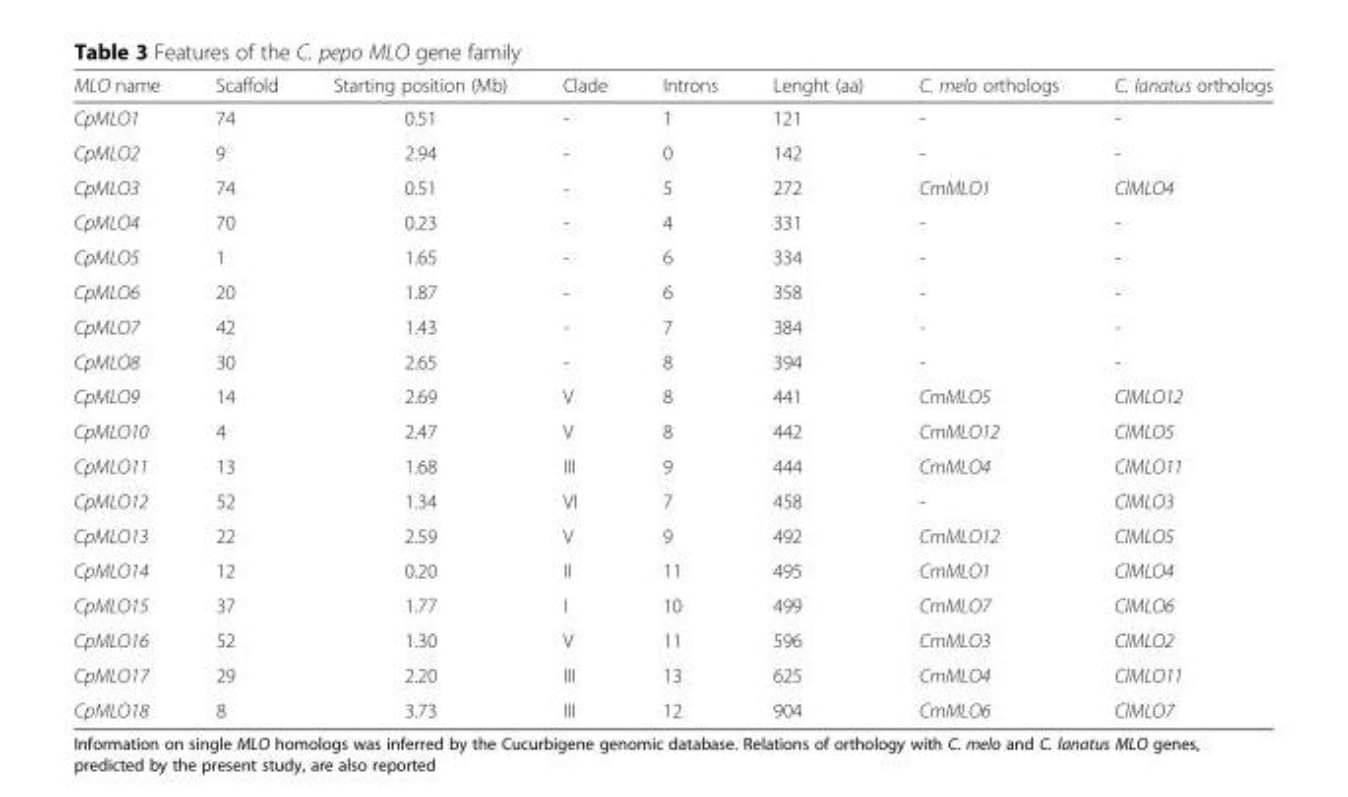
<table><thead><tr><td>MLO name</td><td>Scaffold</td><td>Starting position (Mb)</td><td>Clade</td><td>Introns</td><td>Lenght (aa)</td><td>C. melo orthologs</td><td>C. lanatus orthologs</td></tr></thead><tbody><tr><td>CpMLO1</td><td>74</td><td>0.51</td><td>-</td><td>1</td><td>121</td><td>-</td><td>-</td></tr><tr><td>CpMLO2</td><td>9</td><td>2.94</td><td>-</td><td>0</td><td>142</td><td>-</td><td>-</td></tr><tr><td>CpMLO3</td><td>74</td><td>0.51</td><td>-</td><td>5</td><td>272</td><td>CmMLO1</td><td>ClMLO4</td></tr><tr><td>CpMLO4</td><td>70</td><td>0.23</td><td>-</td><td>4</td><td>331</td><td>-</td><td>-</td></tr><tr><td>CpMLO5</td><td>1</td><td>1.65</td><td>-</td><td>6</td><td>334</td><td>-</td><td>-</td></tr><tr><td>CpMLO6</td><td>20</td><td>1.87</td><td>-</td><td>6</td><td>358</td><td>-</td><td>-</td></tr><tr><td>CpMLO7</td><td>42</td><td>1.43</td><td>-</td><td>7</td><td>384</td><td>-</td><td>-</td></tr><tr><td>CpMLO8</td><td>30</td><td>2.65</td><td>-</td><td>8</td><td>394</td><td>-</td><td>-</td></tr><tr><td>CpMLO9</td><td>14</td><td>2.69</td><td>V</td><td>8</td><td>441</td><td>CmMLO5</td><td>ClMLO12</td></tr><tr><td>CpMLO10</td><td>4</td><td>2.47</td><td>V</td><td>8</td><td>442</td><td>CmMLO12</td><td>ClMLO5</td></tr><tr><td>CpMLO11</td><td>13</td><td>1.68</td><td>III</td><td>9</td><td>444</td><td>CmMLO4</td><td>ClMLO11</td></tr><tr><td>CpMLO12</td><td>52</td><td>1.34</td><td>VI</td><td>7</td><td>458</td><td>-</td><td>ClMLO3</td></tr><tr><td>CpMLO13</td><td>22</td><td>2.59</td><td>V</td><td>9</td><td>492</td><td>CmMLO12</td><td>ClMLO5</td></tr><tr><td>CpMLO14</td><td>12</td><td>0.20</td><td>II</td><td>11</td><td>495</td><td>CmMLO1</td><td>ClMLO4</td></tr><tr><td>CpMLO15</td><td>37</td><td>1.77</td><td>I</td><td>10</td><td>499</td><td>CmMLO7</td><td>ClMLO6</td></tr><tr><td>CpMLO16</td><td>52</td><td>1.30</td><td>V</td><td>11</td><td>596</td><td>CmMLO3</td><td>ClMLO2</td></tr><tr><td>CpMLO17</td><td>29</td><td>2.20</td><td>III</td><td>13</td><td>625</td><td>CmMLO4</td><td>ClMLO11</td></tr><tr><td>CpMLO18</td><td>8</td><td>3.73</td><td>III</td><td>12</td><td>904</td><td>CmMLO6</td><td>ClMLO7</td></tr></tbody></table>